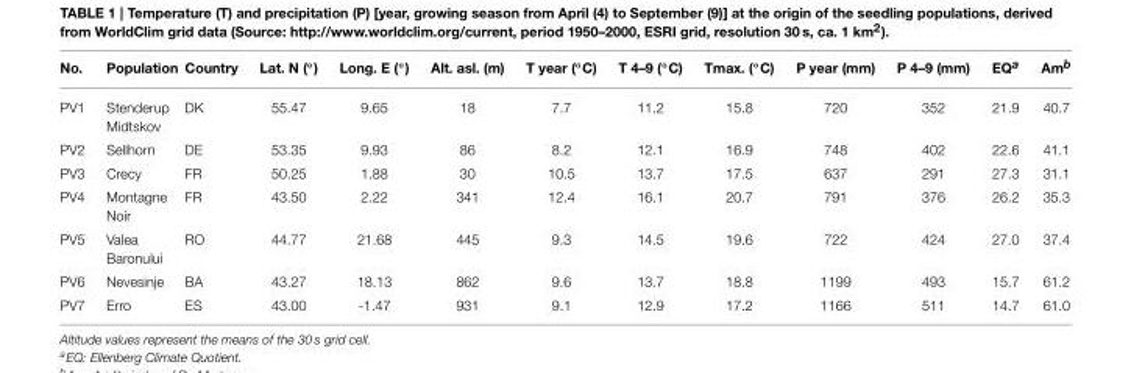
<table><thead><tr><td>No.</td><td>Population</td><td>Country</td><td>Lat. N (◦)</td><td>Long. E (◦)</td><td>Alt. asl. (m)</td><td>T year (◦C)</td><td>T 4–9 (◦C)</td><td>Tmax. (◦C)</td><td>P year (mm)</td><td>P 4–9 (mm)</td><td>EQ<sup>a</sup></td><td>Am<sup>b</sup></td></tr></thead><tbody><tr><td>PV1</td><td>Stenderup Midtskov</td><td>DK</td><td>55.47</td><td>9.65</td><td>18</td><td>7.7</td><td>11.2</td><td>15.8</td><td>720</td><td>352</td><td>21.9</td><td>40.7</td></tr><tr><td>PV2</td><td>Sellhorn</td><td>DE</td><td>53.35</td><td>9.93</td><td>86</td><td>8.2</td><td>12.1</td><td>16.9</td><td>748</td><td>402</td><td>22.6</td><td>41.1</td></tr><tr><td>PV3</td><td>Crecy</td><td>FR</td><td>50.25</td><td>1.88</td><td>30</td><td>10.5</td><td>13.7</td><td>17.5</td><td>637</td><td>291</td><td>27.3</td><td>31.1</td></tr><tr><td>PV4</td><td>Montagne Noir</td><td>FR</td><td>43.50</td><td>2.22</td><td>341</td><td>12.4</td><td>16.1</td><td>20.7</td><td>791</td><td>376</td><td>26.2</td><td>35.3</td></tr><tr><td>PV5</td><td>Valea Baronului</td><td>RO</td><td>44.77</td><td>21.68</td><td>445</td><td>9.3</td><td>14.5</td><td>19.6</td><td>722</td><td>424</td><td>27.0</td><td>37.4</td></tr><tr><td>PV6</td><td>Nevesinje</td><td>BA</td><td>43.27</td><td>18.13</td><td>862</td><td>9.6</td><td>13.7</td><td>18.8</td><td>1199</td><td>493</td><td>15.7</td><td>61.2</td></tr><tr><td>PV7</td><td>Erro</td><td>ES</td><td>43.00</td><td>-1.47</td><td>931</td><td>9.1</td><td>12.9</td><td>17.2</td><td>1166</td><td>511</td><td>14.7</td><td>61.0</td></tr></tbody></table>